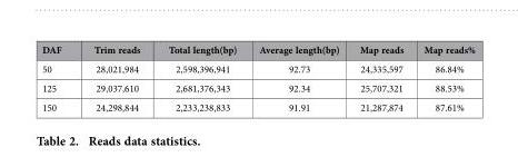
<table><thead><tr><td>DAF</td><td>Trim reads</td><td>Total length(bp)</td><td>Average length(bp)</td><td>Map reads</td><td>Map reads%</td></tr></thead><tbody><tr><td>50</td><td>28,021,984</td><td>2,598,396,941</td><td>92.73</td><td>24,335,597</td><td>86.84%</td></tr><tr><td>125</td><td>29,037,610</td><td>2,681,376,343</td><td>92.34</td><td>25,707,321</td><td>88.53%</td></tr><tr><td>150</td><td>24,298,844</td><td>2,233,238,833</td><td>91.91</td><td>21,287,874</td><td>87.61%</td></tr></tbody></table>